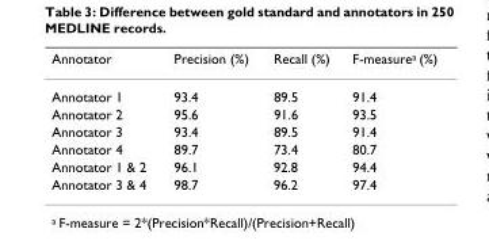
<table><thead><tr><td>Annotator</td><td>Precision (%)</td><td>Recall (%)</td><td>F-measure<sup>a</sup> (%)</td></tr></thead><tbody><tr><td>Annotator 1</td><td>93.4</td><td>89.5</td><td>91.4</td></tr><tr><td>Annotator 2</td><td>95.6</td><td>91.6</td><td>93.5</td></tr><tr><td>Annotator 3</td><td>93.4</td><td>89.5</td><td>91.4</td></tr><tr><td>Annotator 4</td><td>89.7</td><td>73.4</td><td>80.7</td></tr><tr><td>Annotator 1 &amp; 2</td><td>96.1</td><td>92.8</td><td>94.4</td></tr><tr><td>Annotator 3 &amp; 4</td><td>98.7</td><td>96.2</td><td>97.4</td></tr></tbody></table>